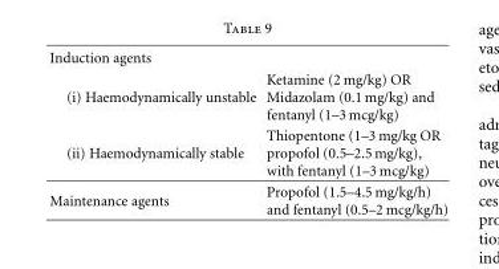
<table><tbody><tr><td colspan="2">Induction agents</td></tr><tr><td>(i) Haemodynamically unstable</td><td>Ketamine (2 mg/kg) OR Midazolam (0.1 mg/kg) and fentanyl (1–3 mcg/kg)</td></tr><tr><td>(ii) Haemodynamically stable</td><td>Thiopentone (1–3 mg/kg OR propofol (0.5–2.5 mg/kg), with fentanyl (1–3 mcg/kg)</td></tr><tr><td>Maintenance agents</td><td>Propofol (1.5–4.5 mg/kg/h) and fentanyl (0.5–2 mcg/kg/h)</td></tr></tbody></table>